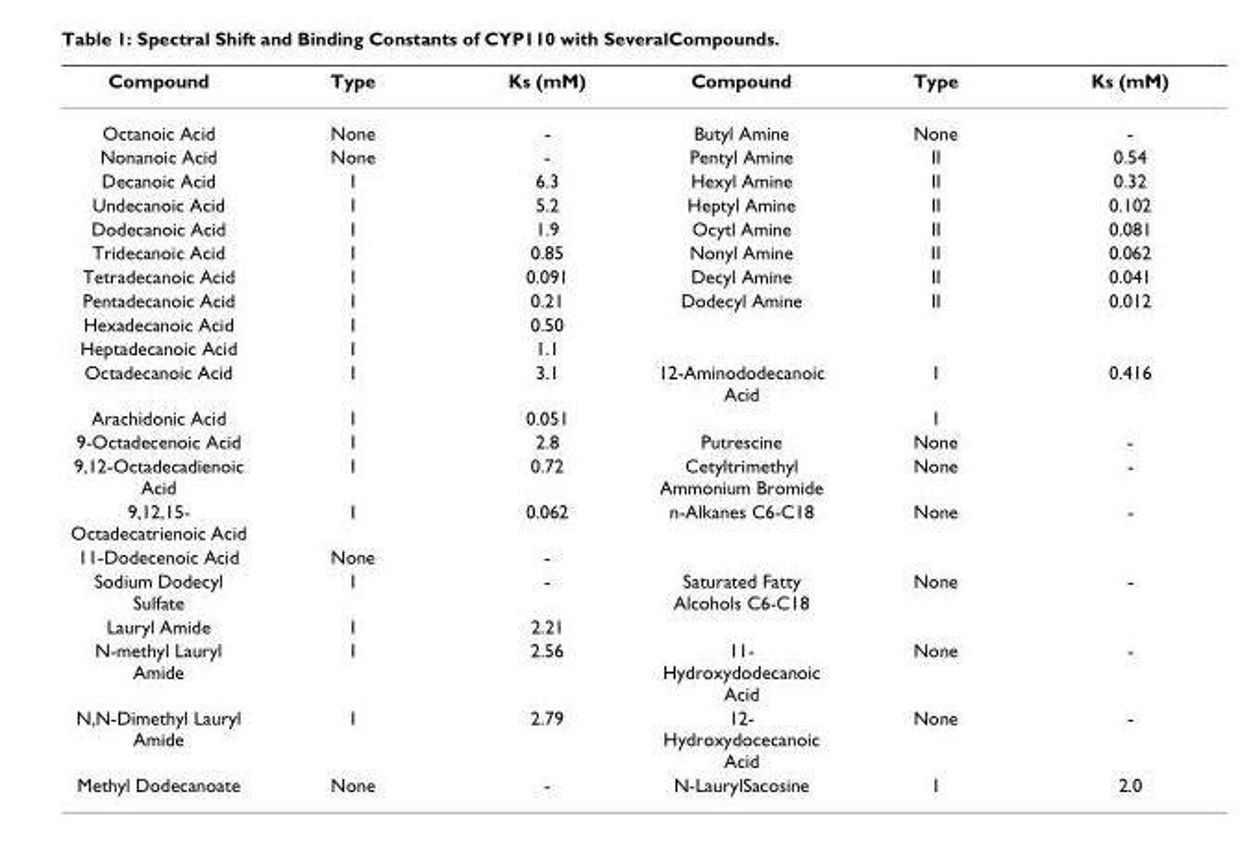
<table><thead><tr><td>Compound</td><td>Type</td><td>Ks (mM)</td><td>Compound</td><td>Type</td><td>Ks (mM)</td></tr></thead><tbody><tr><td>Octanoic Acid</td><td>None</td><td>-</td><td>Butyl Amine</td><td>None</td><td>-</td></tr><tr><td>Nonanoic Acid</td><td>None</td><td>-</td><td>Pentyl Amine</td><td>II</td><td>0.54</td></tr><tr><td>Decanoic Acid</td><td>I</td><td>6.3</td><td>Hexyl Amine</td><td>II</td><td>0.32</td></tr><tr><td>Undecanoic Acid</td><td>I</td><td>5.2</td><td>Heptyl Amine</td><td>II</td><td>0.102</td></tr><tr><td>Dodecanoic Acid</td><td>I</td><td>1.9</td><td>Ocytl Amine</td><td>II</td><td>0.081</td></tr><tr><td>Tridecanoic Acid</td><td>I</td><td>0.85</td><td>Nonyl Amine</td><td>II</td><td>0.062</td></tr><tr><td>Tetradecanoic Acid</td><td>I</td><td>0.091</td><td>Decyl Amine</td><td>II</td><td>0.041</td></tr><tr><td>Pentadecanoic Acid</td><td>I</td><td>0.21</td><td>Dodecyl Amine</td><td>II</td><td>0.012</td></tr><tr><td>Hexadecanoic Acid</td><td>I</td><td>0.50</td><td></td><td></td><td></td></tr><tr><td>Heptadecanoic Acid</td><td>I</td><td>1.1</td><td></td><td></td><td></td></tr><tr><td>Octadecanoic Acid</td><td>I</td><td>3.1</td><td>12-Aminododecanoic Acid</td><td>I</td><td>0.416</td></tr><tr><td>Arachidonic Acid</td><td>I</td><td>0.051</td><td></td><td>I</td><td></td></tr><tr><td>9-Octadecenoic Acid</td><td>I</td><td>2.8</td><td>Putrescine</td><td>None</td><td>-</td></tr><tr><td>9,12-Octadecadienoic Acid</td><td>I</td><td>0.72</td><td>Cetyltrimethyl Ammonium Bromide</td><td>None</td><td>-</td></tr><tr><td>9,12,15- Octadecatrienoic Acid</td><td>I</td><td>0.062</td><td>n-Alkanes C6-C18</td><td>None</td><td>-</td></tr><tr><td>11-Dodecenoic Acid</td><td>None</td><td>-</td><td></td><td></td><td></td></tr><tr><td>Sodium Dodecyl Sulfate</td><td>I</td><td>-</td><td>Saturated Fatty Alcohols C6-C18</td><td>None</td><td>-</td></tr><tr><td>Lauryl Amide</td><td>I</td><td>2.21</td><td></td><td></td><td></td></tr><tr><td>N-methyl Lauryl Amide</td><td>I</td><td>2.56</td><td>11- Hydroxydodecanoic Acid</td><td>None</td><td>-</td></tr><tr><td>N,N-Dimethyl Lauryl Amide</td><td>I</td><td>2.79</td><td>12- Hydroxydocecanoic Acid</td><td>None</td><td>-</td></tr><tr><td>Methyl Dodecanoate</td><td>None</td><td>-</td><td>N-LaurylSacosine</td><td>I</td><td>2.0</td></tr></tbody></table>